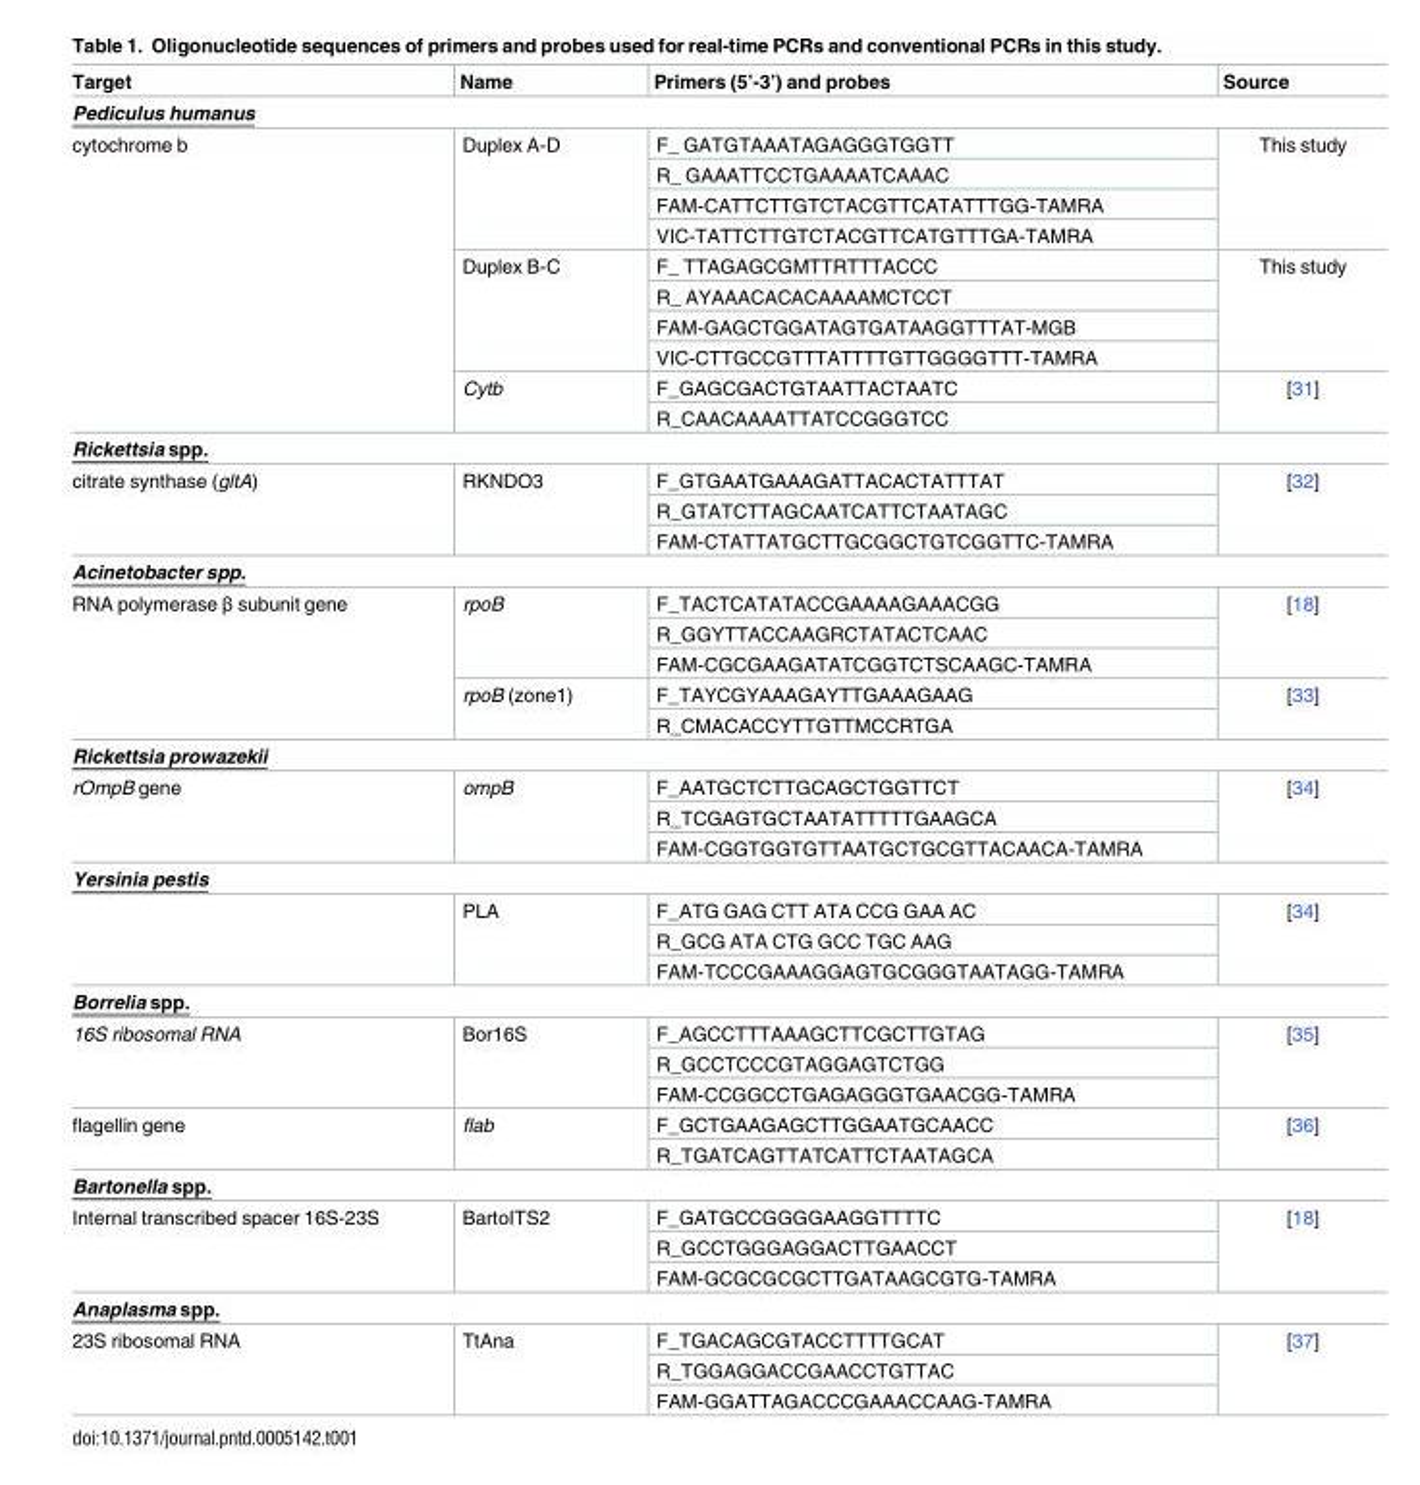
<table><thead><tr><td>Target</td><td>Name</td><td>Primers (5’-3’) and probes</td><td>Source</td></tr></thead><tbody><tr><td colspan="4">Pediculus humanus</td></tr><tr><td rowspan="10">cytochrome b</td><td rowspan="4">Duplex A-D</td><td>F_ GATGTAAATAGAGGGTGGTT</td><td rowspan="4">This study</td></tr><tr><td>R_ GAAATTCCTGAAAATCAAAC</td></tr><tr><td>FAM-CATTCTTGTCTACGTTCATATTTGG-TAMRA</td></tr><tr><td>VIC-TATTCTTGTCTACGTTCATGTTTGA-TAMRA</td></tr><tr><td rowspan="4">Duplex B-C</td><td>F_ TTAGAGCGMTTRTTTACCC</td><td rowspan="4">This study</td></tr><tr><td>R_ AYAAACACACAAAAMCTCCT</td></tr><tr><td>FAM-GAGCTGGATAGTGATAAGGTTTAT-MGB</td></tr><tr><td>VIC-CTTGCCGTTTATTTTGTTGGGGTTT-TAMRA</td></tr><tr><td rowspan="2">Cytb</td><td>F_GAGCGACTGTAATTACTAATC</td><td rowspan="2">[31]</td></tr><tr><td>R_CAACAAAATTATCCGGGTCC</td></tr><tr><td colspan="4">Rickettsia spp.</td></tr><tr><td rowspan="3">citrate synthase (gltA)</td><td rowspan="3">RKNDO3</td><td>F_GTGAATGAAAGATTACACTATTTAT</td><td rowspan="3">[32]</td></tr><tr><td>R_GTATCTTAGCAATCATTCTAATAGC</td></tr><tr><td>FAM-CTATTATGCTTGCGGCTGTCGGTTC-TAMRA</td></tr><tr><td colspan="4">Acinetobacter spp.</td></tr><tr><td rowspan="5">RNA polymerase β subunit gene</td><td rowspan="3">rpoB</td><td>F_TACTCATATACCGAAAAGAAACGG</td><td rowspan="3">[18]</td></tr><tr><td>R_GGYTTACCAAGRCTATACTCAAC</td></tr><tr><td>FAM-CGCGAAGATATCGGTCTSCAAGC-TAMRA</td></tr><tr><td rowspan="2">rpoB (zone1)</td><td>F_TAYCGYAAAGAYTTGAAAGAAG</td><td rowspan="2">[33]</td></tr><tr><td>R_CMACACCYTTGTTMCCRTGA</td></tr><tr><td colspan="4">Rickettsia prowazekii</td></tr><tr><td rowspan="3">rOmpB gene</td><td rowspan="3">ompB</td><td>F_AATGCTCTTGCAGCTGGTTCT</td><td rowspan="3">[34]</td></tr><tr><td>R_TCGAGTGCTAATATTTTTGAAGCA</td></tr><tr><td>FAM-CGGTGGTGTTAATGCTGCGTTACAACA-TAMRA</td></tr><tr><td colspan="4">Yersinia pestis</td></tr><tr><td rowspan="3"></td><td rowspan="3">PLA</td><td>F_ATG GAG CTT ATA CCG GAA AC</td><td rowspan="3">[34]</td></tr><tr><td>R_GCG ATA CTG GCC TGC AAG</td></tr><tr><td>FAM-TCCCGAAAGGAGTGCGGGTAATAGG-TAMRA</td></tr><tr><td colspan="4">Borrelia spp.</td></tr><tr><td rowspan="3">16S ribosomal RNA</td><td rowspan="3">Bor16S</td><td>F_AGCCTTTAAAGCTTCGCTTGTAG</td><td rowspan="3">[35]</td></tr><tr><td>R_GCCTCCCGTAGGAGTCTGG</td></tr><tr><td>FAM-CCGGCCTGAGAGGGTGAACGG-TAMRA</td></tr><tr><td rowspan="2">flagellin gene</td><td rowspan="2">flab</td><td>F_GCTGAAGAGCTTGGAATGCAACC</td><td rowspan="2">[36]</td></tr><tr><td>R_TGATCAGTTATCATTCTAATAGCA</td></tr><tr><td colspan="4">Bartonella spp.</td></tr><tr><td rowspan="3">Internal transcribed spacer 16S-23S</td><td rowspan="3">BartoITS2</td><td>F_GATGCCGGGGAAGGTTTTC</td><td rowspan="3">[18]</td></tr><tr><td>R_GCCTGGGAGGACTTGAACCT</td></tr><tr><td>FAM-GCGCGCGCTTGATAAGCGTG-TAMRA</td></tr><tr><td colspan="4">Anaplasma spp.</td></tr><tr><td rowspan="3">23S ribosomal RNA</td><td rowspan="3">TtAna</td><td>F_TGACAGCGTACCTTTTGCAT</td><td rowspan="3">[37]</td></tr><tr><td>R_TGGAGGACCGAACCTGTTAC</td></tr><tr><td>FAM-GGATTAGACCCGAAACCAAG-TAMRA</td></tr></tbody></table>